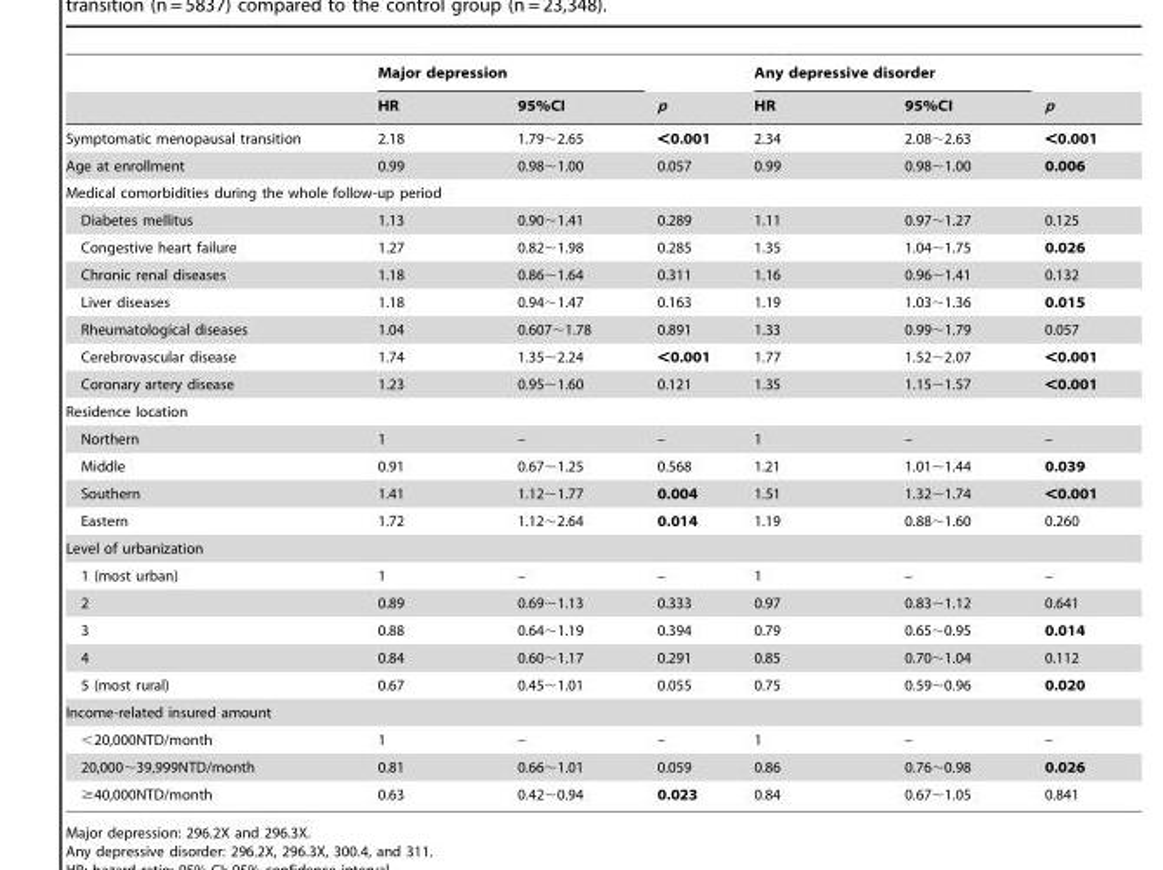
<table><thead><tr><td rowspan="2"></td><td colspan="2">Major depression</td><td rowspan="2">p</td><td colspan="2">Any depressive disorder</td><td rowspan="2">p</td></tr><tr><td>HR</td><td>95%CI</td><td>HR</td><td>95%CI</td></tr></thead><tbody><tr><td>Symptomatic menopausal transition</td><td>2.18</td><td>1.79∼2.65</td><td>&lt;0.001</td><td>2.34</td><td>2.08∼2.63</td><td>&lt;0.001</td></tr><tr><td>Age at enrollment</td><td>0.99</td><td>0.98∼1.00</td><td>0.057</td><td>0.99</td><td>0.98∼1.00</td><td>0.006</td></tr><tr><td colspan="7">Medical comorbidities during the whole follow-up period</td></tr><tr><td>Diabetes mellitus</td><td>1.13</td><td>0.90∼1.41</td><td>0.289</td><td>1.11</td><td>0.97∼1.27</td><td>0.125</td></tr><tr><td>Congestive heart failure</td><td>1.27</td><td>0.82∼1.98</td><td>0.285</td><td>1.35</td><td>1.04∼1.75</td><td>0.026</td></tr><tr><td>Chronic renal diseases</td><td>1.18</td><td>0.86∼1.64</td><td>0.311</td><td>1.16</td><td>0.96∼1.41</td><td>0.132</td></tr><tr><td>Liver diseases</td><td>1.18</td><td>0.94∼1.47</td><td>0.163</td><td>1.19</td><td>1.03∼1.36</td><td>0.015</td></tr><tr><td>Rheumatological diseases</td><td>1.04</td><td>0.607∼1.78</td><td>0.891</td><td>1.33</td><td>0.99∼1.79</td><td>0.057</td></tr><tr><td>Cerebrovascular disease</td><td>1.74</td><td>1.35∼2.24</td><td>&lt;0.001</td><td>1.77</td><td>1.52∼2.07</td><td>&lt;0.001</td></tr><tr><td>Coronary artery disease</td><td>1.23</td><td>0.95∼1.60</td><td>0.121</td><td>1.35</td><td>1.15∼1.57</td><td>&lt;0.001</td></tr><tr><td colspan="7">Residence location</td></tr><tr><td>Northern</td><td>1</td><td>–</td><td>–</td><td>1</td><td>–</td><td>–</td></tr><tr><td>Middle</td><td>0.91</td><td>0.67∼1.25</td><td>0.568</td><td>1.21</td><td>1.01∼1.44</td><td>0.039</td></tr><tr><td>Southern</td><td>1.41</td><td>1.12∼1.77</td><td>0.004</td><td>1.51</td><td>1.32∼1.74</td><td>&lt;0.001</td></tr><tr><td>Eastern</td><td>1.72</td><td>1.12∼2.64</td><td>0.014</td><td>1.19</td><td>0.88∼1.60</td><td>0.260</td></tr><tr><td colspan="7">Level of urbanization</td></tr><tr><td>1 (most urban)</td><td>1</td><td>–</td><td>–</td><td>1</td><td>–</td><td>–</td></tr><tr><td>2</td><td>0.89</td><td>0.69∼1.13</td><td>0.333</td><td>0.97</td><td>0.83∼1.12</td><td>0.641</td></tr><tr><td>3</td><td>0.88</td><td>0.64∼1.19</td><td>0.394</td><td>0.79</td><td>0.65∼0.95</td><td>0.014</td></tr><tr><td>4</td><td>0.84</td><td>0.60∼1.17</td><td>0.291</td><td>0.85</td><td>0.70∼1.04</td><td>0.112</td></tr><tr><td>5 (most rural)</td><td>0.67</td><td>0.45∼1.01</td><td>0.055</td><td>0.75</td><td>0.59∼0.96</td><td>0.020</td></tr><tr><td colspan="7">Income-related insured amount</td></tr><tr><td>&lt;20,000NTD/month</td><td>1</td><td>–</td><td>–</td><td>1</td><td>–</td><td>–</td></tr><tr><td>20,000∼39,999NTD/month</td><td>0.81</td><td>0.66∼1.01</td><td>0.059</td><td>0.86</td><td>0.76∼0.98</td><td>0.026</td></tr><tr><td>≥40,000NTD/month</td><td>0.63</td><td>0.42∼0.94</td><td>0.023</td><td>0.84</td><td>0.67∼1.05</td><td>0.841</td></tr></tbody></table>